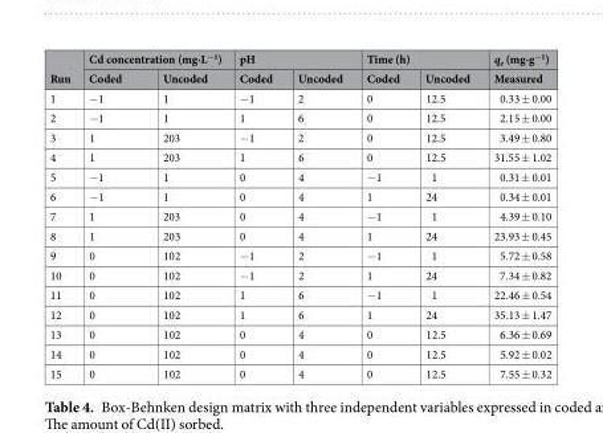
<table><thead><tr><td rowspan="2">Run</td><td colspan="2">Cd concentration (mg∙L<sup>−1</sup>)</td><td colspan="2">pH</td><td colspan="2">Time (h)</td><td rowspan="2">q<sub>e</sub> (mg∙g<sup>−1</sup>) Measured</td></tr><tr><td>Coded</td><td>Uncoded</td><td>Coded</td><td>Uncoded</td><td>Coded</td><td>Uncoded</td></tr></thead><tbody><tr><td>1</td><td>−1</td><td>1</td><td>−1</td><td>2</td><td>0</td><td>12.5</td><td>0.33 ± 0.00</td></tr><tr><td>2</td><td>−1</td><td>1</td><td>1</td><td>6</td><td>0</td><td>12.5</td><td>2.15 ± 0.00</td></tr><tr><td>3</td><td>1</td><td>203</td><td>−1</td><td>2</td><td>0</td><td>12.5</td><td>3.49 ± 0.80</td></tr><tr><td>4</td><td>1</td><td>203</td><td>1</td><td>6</td><td>0</td><td>12.5</td><td>31.55 ± 1.02</td></tr><tr><td>5</td><td>−1</td><td>1</td><td>0</td><td>4</td><td>−1</td><td>1</td><td>0.31 ± 0.01</td></tr><tr><td>6</td><td>−1</td><td>1</td><td>0</td><td>4</td><td>1</td><td>24</td><td>0.34 ± 0.01</td></tr><tr><td>7</td><td>1</td><td>203</td><td>0</td><td>4</td><td>−1</td><td>1</td><td>4.39 ± 0.10</td></tr><tr><td>8</td><td>1</td><td>203</td><td>0</td><td>4</td><td>1</td><td>24</td><td>23.93 ± 0.45</td></tr><tr><td>9</td><td>0</td><td>102</td><td>−1</td><td>2</td><td>−1</td><td>1</td><td>5.72 ± 0.58</td></tr><tr><td>10</td><td>0</td><td>102</td><td>−1</td><td>2</td><td>1</td><td>24</td><td>7.34 ± 0.82</td></tr><tr><td>11</td><td>0</td><td>102</td><td>1</td><td>6</td><td>−1</td><td>1</td><td>22.46 ± 0.54</td></tr><tr><td>12</td><td>0</td><td>102</td><td>1</td><td>6</td><td>1</td><td>24</td><td>35.13 ± 1.47</td></tr><tr><td>13</td><td>0</td><td>102</td><td>0</td><td>4</td><td>0</td><td>12.5</td><td>6.36 ± 0.69</td></tr><tr><td>14</td><td>0</td><td>102</td><td>0</td><td>4</td><td>0</td><td>12.5</td><td>5.92 ± 0.02</td></tr><tr><td>15</td><td>0</td><td>102</td><td>0</td><td>4</td><td>0</td><td>12.5</td><td>7.55 ± 0.32</td></tr></tbody></table>